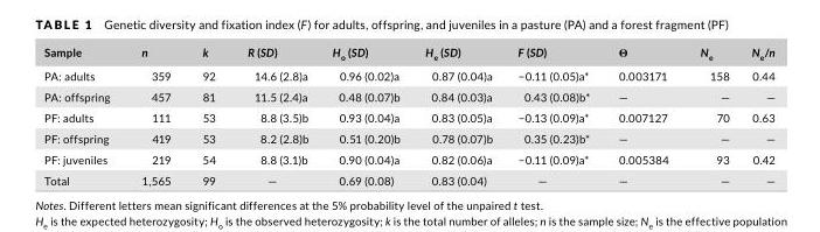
<table><thead><tr><td>Sample</td><td>n</td><td>k</td><td>R (SD)</td><td>H<sub>o</sub> (SD)</td><td>H<sub>e</sub> (SD)</td><td>F (SD)</td><td>Θ</td><td>N<sub>e</sub></td><td>N<sub>e</sub>/n</td></tr></thead><tbody><tr><td>PA: adults</td><td>359</td><td>92</td><td>14.6 (2.8)a</td><td>0.96 (0.02)a</td><td>0.87 (0.04)a</td><td>−0.11 (0.05)a*</td><td>0.003171</td><td>158</td><td>0.44</td></tr><tr><td>PA: offspring</td><td>457</td><td>81</td><td>11.5 (2.4)a</td><td>0.48 (0.07)b</td><td>0.84 (0.03)a</td><td>0.43 (0.08)b*</td><td>—</td><td>—</td><td>—</td></tr><tr><td>PF: adults</td><td>111</td><td>53</td><td>8.8 (3.5)b</td><td>0.93 (0.04)a</td><td>0.83 (0.05)a</td><td>−0.13 (0.09)a*</td><td>0.007127</td><td>70</td><td>0.63</td></tr><tr><td>PF: offspring</td><td>419</td><td>53</td><td>8.2 (2.8)b</td><td>0.51 (0.20)b</td><td>0.78 (0.07)b</td><td>0.35 (0.23)b*</td><td>—</td><td>—</td><td>—</td></tr><tr><td>PF: juveniles</td><td>219</td><td>54</td><td>8.8 (3.1)b</td><td>0.90 (0.04)a</td><td>0.82 (0.06)a</td><td>−0.11 (0.09)a*</td><td>0.005384</td><td>93</td><td>0.42</td></tr><tr><td>Total</td><td>1,565</td><td>99</td><td>—</td><td>0.69 (0.08)</td><td>0.83 (0.04)</td><td>—</td><td>—</td><td>—</td><td>—</td></tr></tbody></table>